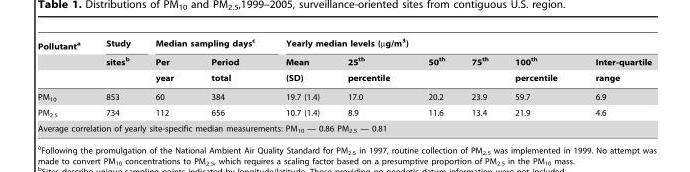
<table><thead><tr><td rowspan="3">Pollutant<sup>a</sup></td><td rowspan="3">Study sites<sup>b</sup></td><td colspan="2">Median sampling days<sup>c</sup></td><td colspan="6">Yearly median levels (µg/m<sup>3</sup>)</td></tr><tr><td rowspan="2">Per year</td><td rowspan="2">Period total</td><td rowspan="2">Mean (SD)</td><td rowspan="2">25<sup>th</sup> percentile</td><td rowspan="2">50<sup>th</sup></td><td rowspan="2">75<sup>th</sup></td><td rowspan="2">100<sup>th</sup> percentile</td><td rowspan="2">Inter-quartile range</td></tr><tr></tr></thead><tbody><tr><td>PM<sub>10</sub></td><td>853</td><td>60</td><td>384</td><td>19.7 (1.4)</td><td>17.0</td><td>20.2</td><td>23.9</td><td>59.7</td><td>6.9</td></tr><tr><td>PM<sub>2.5</sub></td><td>734</td><td>112</td><td>656</td><td>10.7 (1.4)</td><td>8.9</td><td>11.6</td><td>13.4</td><td>21.9</td><td>4.6</td></tr><tr><td colspan="10">Average correlation of yearly site-specific median measurements: PM<sub>10</sub> — 0.86 PM<sub>2.5</sub> — 0.81</td></tr></tbody></table>